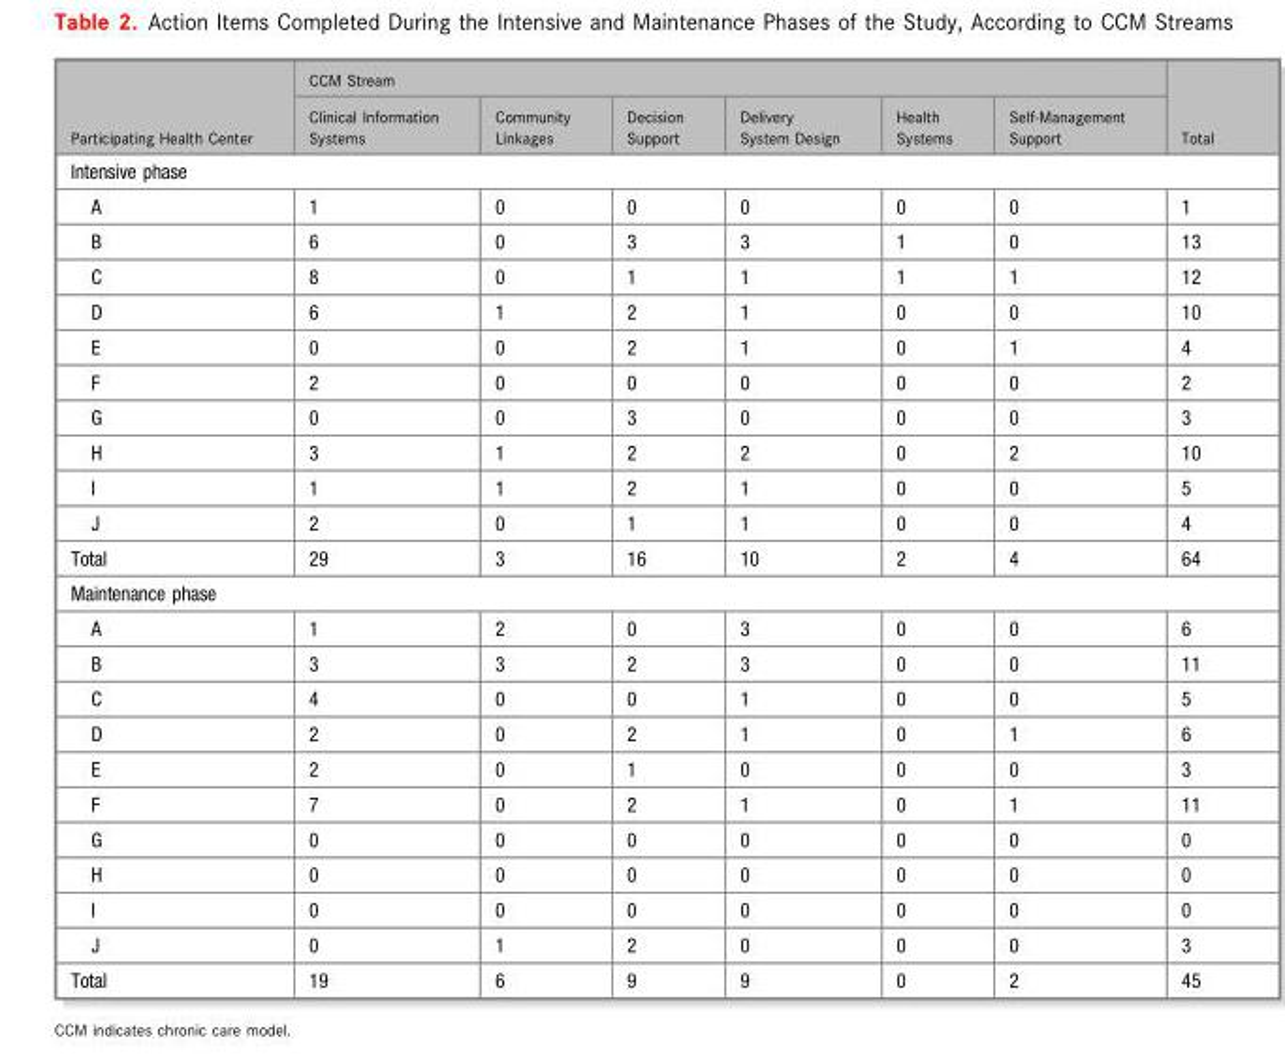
<table><thead><tr><td rowspan="2">Participating Health Center</td><td colspan="6">CCM Stream</td><td rowspan="2">Total</td></tr><tr><td>Clinical Information Systems</td><td>Community Linkages</td><td>Decision Support</td><td>Delivery System Design</td><td>Health Systems</td><td>Self-Management Support</td></tr></thead><tbody><tr><td colspan="8">Intensive phase</td></tr><tr><td>A</td><td>1</td><td>0</td><td>0</td><td>0</td><td>0</td><td>0</td><td>1</td></tr><tr><td>B</td><td>6</td><td>0</td><td>3</td><td>3</td><td>1</td><td>0</td><td>13</td></tr><tr><td>C</td><td>8</td><td>0</td><td>1</td><td>1</td><td>1</td><td>1</td><td>12</td></tr><tr><td>D</td><td>6</td><td>1</td><td>2</td><td>1</td><td>0</td><td>0</td><td>10</td></tr><tr><td>E</td><td>0</td><td>0</td><td>2</td><td>1</td><td>0</td><td>1</td><td>4</td></tr><tr><td>F</td><td>2</td><td>0</td><td>0</td><td>0</td><td>0</td><td>0</td><td>2</td></tr><tr><td>G</td><td>0</td><td>0</td><td>3</td><td>0</td><td>0</td><td>0</td><td>3</td></tr><tr><td>H</td><td>3</td><td>1</td><td>2</td><td>2</td><td>0</td><td>2</td><td>10</td></tr><tr><td>I</td><td>1</td><td>1</td><td>2</td><td>1</td><td>0</td><td>0</td><td>5</td></tr><tr><td>J</td><td>2</td><td>0</td><td>1</td><td>1</td><td>0</td><td>0</td><td>4</td></tr><tr><td>Total</td><td>29</td><td>3</td><td>16</td><td>10</td><td>2</td><td>4</td><td>64</td></tr><tr><td colspan="8">Maintenance phase</td></tr><tr><td>A</td><td>1</td><td>2</td><td>0</td><td>3</td><td>0</td><td>0</td><td>6</td></tr><tr><td>B</td><td>3</td><td>3</td><td>2</td><td>3</td><td>0</td><td>0</td><td>11</td></tr><tr><td>C</td><td>4</td><td>0</td><td>0</td><td>1</td><td>0</td><td>0</td><td>5</td></tr><tr><td>D</td><td>2</td><td>0</td><td>2</td><td>1</td><td>0</td><td>1</td><td>6</td></tr><tr><td>E</td><td>2</td><td>0</td><td>1</td><td>0</td><td>0</td><td>0</td><td>3</td></tr><tr><td>F</td><td>7</td><td>0</td><td>2</td><td>1</td><td>0</td><td>1</td><td>11</td></tr><tr><td>G</td><td>0</td><td>0</td><td>0</td><td>0</td><td>0</td><td>0</td><td>0</td></tr><tr><td>H</td><td>0</td><td>0</td><td>0</td><td>0</td><td>0</td><td>0</td><td>0</td></tr><tr><td>I</td><td>0</td><td>0</td><td>0</td><td>0</td><td>0</td><td>0</td><td>0</td></tr><tr><td>J</td><td>0</td><td>1</td><td>2</td><td>0</td><td>0</td><td>0</td><td>3</td></tr><tr><td>Total</td><td>19</td><td>6</td><td>9</td><td>9</td><td>0</td><td>2</td><td>45</td></tr></tbody></table>